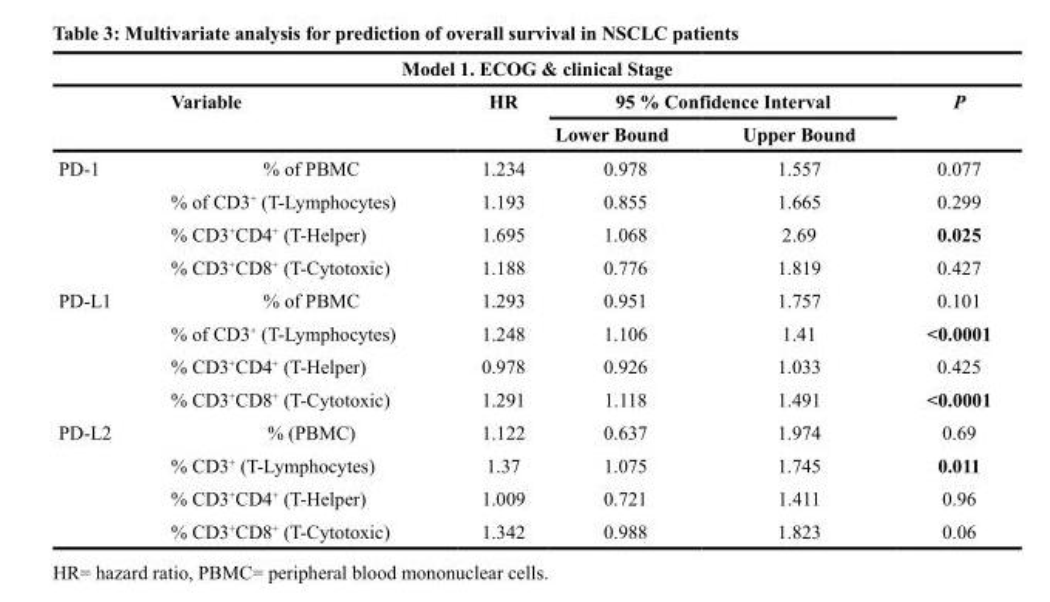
<table><thead><tr><td colspan="6">Model 1. ECOG &amp; clinical Stage</td></tr><tr><td rowspan="2" colspan="2">Variable</td><td rowspan="3">HR 1.234</td><td colspan="2">95 % Confidence Interval</td><td rowspan="3">P 0.077</td></tr><tr><td rowspan="2">Lower Bound 0.978</td><td rowspan="2">Upper Bound 1.557</td></tr><tr><td>PD-1</td><td>% of PBMC</td></tr></thead><tbody><tr><td></td><td>% of CD3<sup>+</sup> (T-Lymphocytes)</td><td>1.193</td><td>0.855</td><td>1.665</td><td>0.299</td></tr><tr><td></td><td>% CD3<sup>+</sup>CD4<sup>+</sup> (T-Helper)</td><td>1.695</td><td>1.068</td><td>2.69</td><td>0.025</td></tr><tr><td></td><td>% CD3<sup>+</sup>CD8<sup>+</sup> (T-Cytotoxic)</td><td>1.188</td><td>0.776</td><td>1.819</td><td>0.427</td></tr><tr><td rowspan="4">PD-L1</td><td>% of PBMC</td><td>1.293</td><td>0.951</td><td>1.757</td><td>0.101</td></tr><tr><td>% of CD3<sup>+</sup> (T-Lymphocytes)</td><td>1.248</td><td>1.106</td><td>1.41</td><td>&lt;0.0001</td></tr><tr><td>% CD3<sup>+</sup>CD4<sup>+</sup> (T-Helper)</td><td>0.978</td><td>0.926</td><td>1.033</td><td>0.425</td></tr><tr><td>% CD3<sup>+</sup>CD8<sup>+</sup> (T-Cytotoxic)</td><td>1.291</td><td>1.118</td><td>1.491</td><td>&lt;0.0001</td></tr><tr><td rowspan="4">PD-L2</td><td>% (PBMC)</td><td>1.122</td><td>0.637</td><td>1.974</td><td>0.69</td></tr><tr><td>% CD3<sup>+</sup> (T-Lymphocytes)</td><td>1.37</td><td>1.075</td><td>1.745</td><td>0.011</td></tr><tr><td>% CD3<sup>+</sup>CD4<sup>+</sup> (T-Helper)</td><td>1.009</td><td>0.721</td><td>1.411</td><td>0.96</td></tr><tr><td>% CD3<sup>+</sup>CD8<sup>+</sup> (T-Cytotoxic)</td><td>1.342</td><td>0.988</td><td>1.823</td><td>0.06</td></tr></tbody></table>